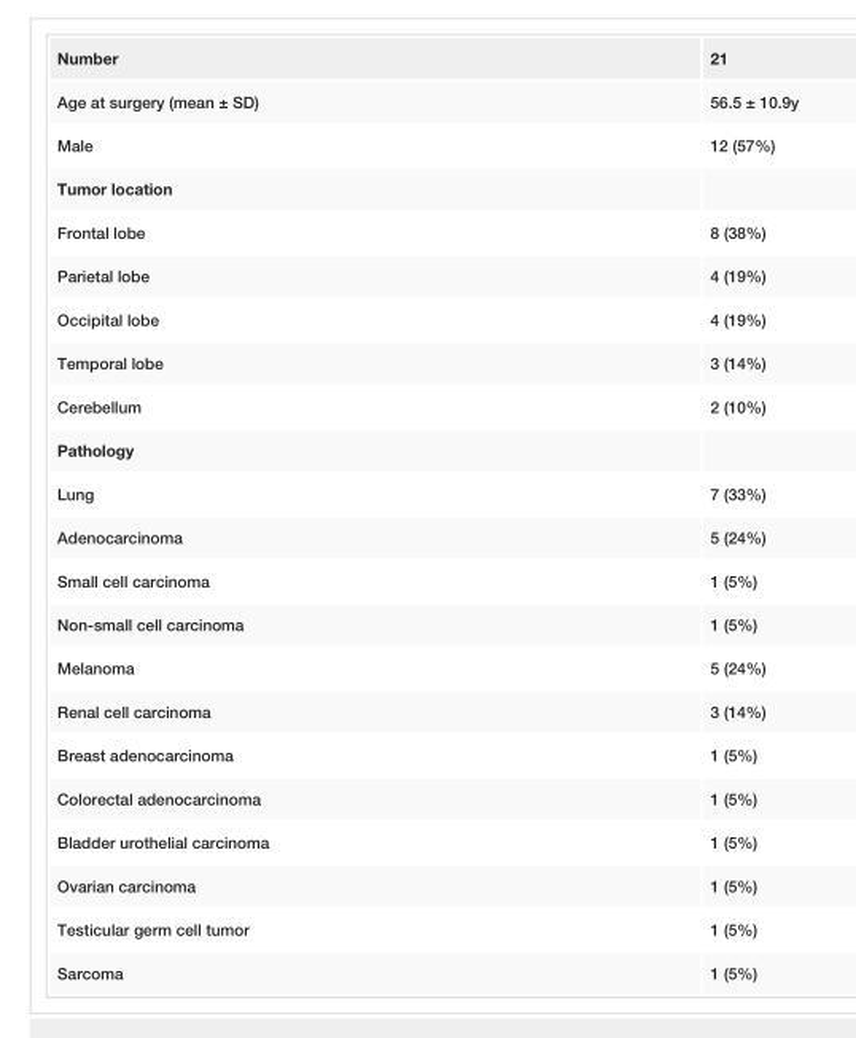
<table><tbody><tr><td>Number</td><td>21</td></tr><tr><td>Age at surgery (mean ± SD)</td><td>56.5 ± 10.9y</td></tr><tr><td>Male</td><td>12 (57%)</td></tr><tr><td colspan="2">Tumor location</td></tr><tr><td>Frontal lobe</td><td>8 (38%)</td></tr><tr><td>Parietal lobe</td><td>4 (19%)</td></tr><tr><td>Occipital lobe</td><td>4 (19%)</td></tr><tr><td>Temporal lobe</td><td>3 (14%)</td></tr><tr><td>Cerebellum</td><td>2 (10%)</td></tr><tr><td colspan="2">Pathology</td></tr><tr><td>Lung</td><td>7 (33%)</td></tr><tr><td>Adenocarcinoma</td><td>5 (24%)</td></tr><tr><td>Small cell carcinoma</td><td>1 (5%)</td></tr><tr><td>Non-small cell carcinoma</td><td>1 (5%)</td></tr><tr><td>Melanoma</td><td>5 (24%)</td></tr><tr><td>Renal cell carcinoma</td><td>3 (14%)</td></tr><tr><td>Breast adenocarcinoma</td><td>1 (5%)</td></tr><tr><td>Colorectal adenocarcinoma</td><td>1 (5%)</td></tr><tr><td>Bladder urothelial carcinoma</td><td>1 (5%)</td></tr><tr><td>Ovarian carcinoma</td><td>1 (5%)</td></tr><tr><td>Testicular germ cell tumor</td><td>1 (5%)</td></tr><tr><td>Sarcoma</td><td>1 (5%)</td></tr></tbody></table>